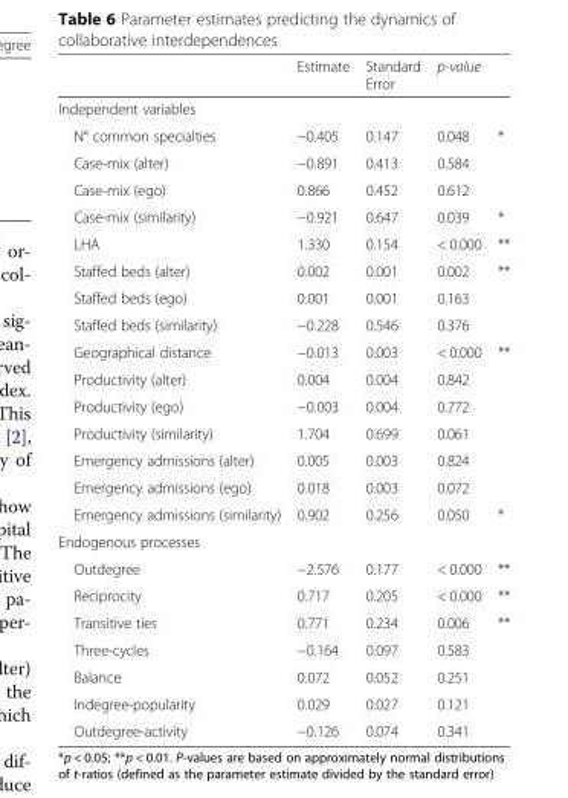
<table><thead><tr><td></td><td>Estimate</td><td>Standard Error</td><td colspan="2">p-value</td></tr><tr><td colspan="5">Independent variables</td></tr><tr><td>N° common specialties</td><td>−0.405</td><td>0.147</td><td>0.048</td><td>*</td></tr></thead><tbody><tr><td>Case-mix (alter)</td><td>−0.891</td><td>0.413</td><td>0.584</td><td></td></tr><tr><td>Case-mix (ego)</td><td>0.866</td><td>0.452</td><td>0.612</td><td></td></tr><tr><td>Case-mix (similarity)</td><td>−0.921</td><td>0.647</td><td>0.039</td><td>*</td></tr><tr><td>LHA</td><td>1.330</td><td>0.154</td><td>&lt; 0.000</td><td>**</td></tr><tr><td>Staffed beds (alter)</td><td>0.002</td><td>0.001</td><td>0.002</td><td>**</td></tr><tr><td>Staffed beds (ego)</td><td>0.001</td><td>0.001</td><td>0.163</td><td></td></tr><tr><td>Staffed beds (similarity)</td><td>−0.228</td><td>0.546</td><td>0.376</td><td></td></tr><tr><td>Geographical distance</td><td>−0.013</td><td>0.003</td><td>&lt; 0.000</td><td>**</td></tr><tr><td>Productivity (alter)</td><td>0.004</td><td>0.004</td><td>0.842</td><td></td></tr><tr><td>Productivity (ego)</td><td>−0.003</td><td>0.004</td><td>0.772</td><td></td></tr><tr><td>Productivity (similarity)</td><td>1.704</td><td>0.699</td><td>0.061</td><td></td></tr><tr><td>Emergency admissions (alter)</td><td>0.005</td><td>0.003</td><td>0.824</td><td></td></tr><tr><td>Emergency admissions (ego)</td><td>0.018</td><td>0.003</td><td>0.072</td><td></td></tr><tr><td>Emergency admissions (similarity)</td><td>0.902</td><td>0.256</td><td>0.050</td><td>*</td></tr><tr><td colspan="5">Endogenous processes</td></tr><tr><td>Outdegree</td><td>−2.576</td><td>0.177</td><td>&lt; 0.000</td><td>**</td></tr><tr><td>Reciprocity</td><td>0.717</td><td>0.205</td><td>&lt; 0.000</td><td>**</td></tr><tr><td>Transitive ties</td><td>0.771</td><td>0.234</td><td>0.006</td><td>**</td></tr><tr><td>Three-cycles</td><td>−0.164</td><td>0.097</td><td>0.583</td><td></td></tr><tr><td>Balance</td><td>0.072</td><td>0.052</td><td>0.251</td><td></td></tr><tr><td>Indegree-popularity</td><td>0.029</td><td>0.027</td><td>0.121</td><td></td></tr><tr><td>Outdegree-activity</td><td>−0.126</td><td>0.074</td><td>0.341</td><td></td></tr></tbody></table>